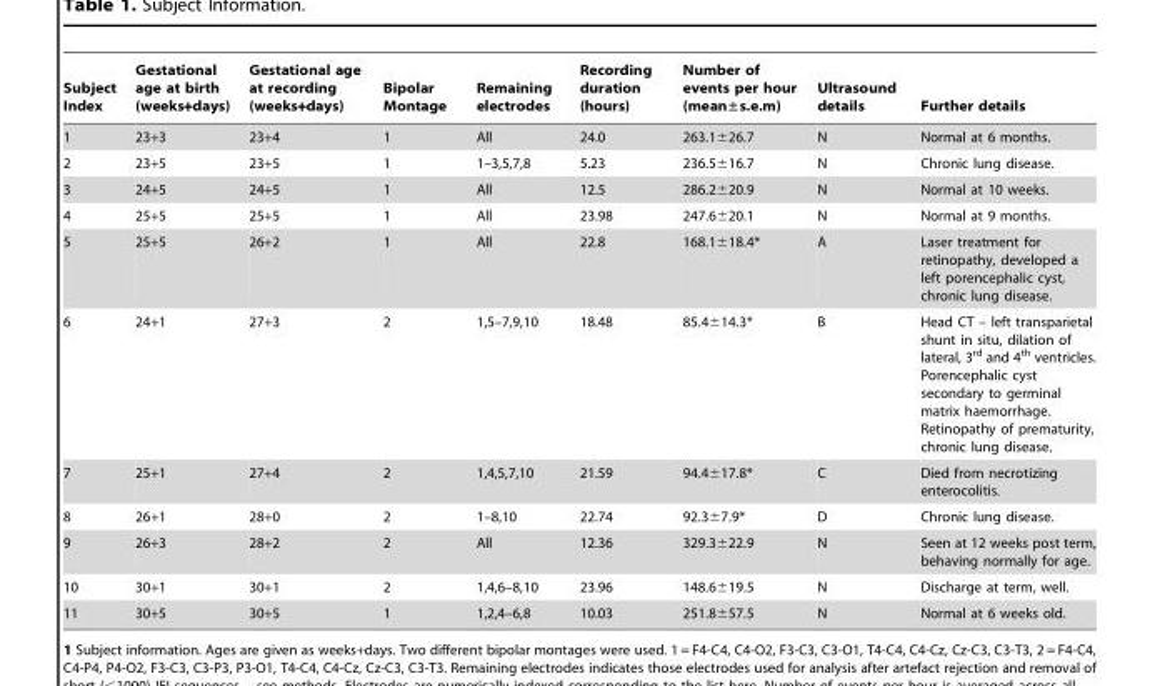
<table><thead><tr><td>Subject Index</td><td>Gestational age at birth (weeks+days)</td><td>Gestational age at recording (weeks+days)</td><td>Bipolar Montage</td><td>Remaining electrodes</td><td>Recording duration (hours)</td><td>Number of events per hour (mean±s.e.m)</td><td>Ultrasound details</td><td>Further details</td></tr></thead><tbody><tr><td>1</td><td>23+3</td><td>23+4</td><td>1</td><td>All</td><td>24.0</td><td>263.1±26.7</td><td>N</td><td>Normal at 6 months.</td></tr><tr><td>2</td><td>23+5</td><td>23+5</td><td>1</td><td>1–3,5,7,8</td><td>5.23</td><td>236.5±16.7</td><td>N</td><td>Chronic lung disease.</td></tr><tr><td>3</td><td>24+5</td><td>24+5</td><td>1</td><td>All</td><td>12.5</td><td>286.2±20.9</td><td>N</td><td>Normal at 10 weeks.</td></tr><tr><td>4</td><td>25+5</td><td>25+5</td><td>1</td><td>All</td><td>23.98</td><td>247.6±20.1</td><td>N</td><td>Normal at 9 months.</td></tr><tr><td>5</td><td>25+5</td><td>26+2</td><td>1</td><td>All</td><td>22.8</td><td>168.1±18.4*</td><td>A</td><td>Laser treatment for retinopathy, developed a left porencephalic cyst, chronic lung disease.</td></tr><tr><td>6</td><td>24+1</td><td>27+3</td><td>2</td><td>1,5–7,9,10</td><td>18.48</td><td>85.4±14.3*</td><td>B</td><td>Head CT – left transparietal shunt in situ, dilation of lateral, 3<sup>rd</sup> and 4<sup>th</sup> ventricles. Porencephalic cyst secondary to germinal matrix haemorrhage. Retinopathy of prematurity, chronic lung disease.</td></tr><tr><td>7</td><td>25+1</td><td>27+4</td><td>2</td><td>1,4,5,7,10</td><td>21.59</td><td>94.4±17.8*</td><td>C</td><td>Died from necrotizing enterocolitis.</td></tr><tr><td>8</td><td>26+1</td><td>28+0</td><td>2</td><td>1–8,10</td><td>22.74</td><td>92.3±7.9*</td><td>D</td><td>Chronic lung disease.</td></tr><tr><td>9</td><td>26+3</td><td>28+2</td><td>2</td><td>All</td><td>12.36</td><td>329.3±22.9</td><td>N</td><td>Seen at 12 weeks post term, behaving normally for age.</td></tr><tr><td>10</td><td>30+1</td><td>30+1</td><td>2</td><td>1,4,6–8,10</td><td>23.96</td><td>148.6±19.5</td><td>N</td><td>Discharge at term, well.</td></tr><tr><td>11</td><td>30+5</td><td>30+5</td><td>1</td><td>1,2,4–6,8</td><td>10.03</td><td>251.8±57.5</td><td>N</td><td>Normal at 6 weeks old.</td></tr></tbody></table>